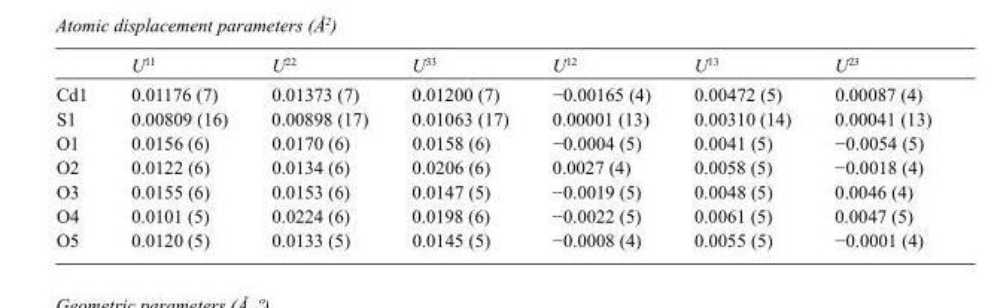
<table><thead><tr><td></td><td>U<sup>11</sup></td><td>U<sup>22</sup></td><td>U<sup>33</sup></td><td>U<sup>12</sup></td><td>U<sup>13</sup></td><td>U<sup>23</sup></td></tr></thead><tbody><tr><td>Cd1</td><td>0.01176 (7)</td><td>0.01373 (7)</td><td>0.01200 (7)</td><td>−0.00165 (4)</td><td>0.00472 (5)</td><td>0.00087 (4)</td></tr><tr><td>S1</td><td>0.00809 (16)</td><td>0.00898 (17)</td><td>0.01063 (17)</td><td>0.00001 (13)</td><td>0.00310 (14)</td><td>0.00041 (13)</td></tr><tr><td>O1</td><td>0.0156 (6)</td><td>0.0170 (6)</td><td>0.0158 (6)</td><td>−0.0004 (5)</td><td>0.0041 (5)</td><td>−0.0054 (5)</td></tr><tr><td>O2</td><td>0.0122 (6)</td><td>0.0134 (6)</td><td>0.0206 (6)</td><td>0.0027 (4)</td><td>0.0058 (5)</td><td>−0.0018 (4)</td></tr><tr><td>O3</td><td>0.0155 (6)</td><td>0.0153 (6)</td><td>0.0147 (5)</td><td>−0.0019 (5)</td><td>0.0048 (5)</td><td>0.0046 (4)</td></tr><tr><td>O4</td><td>0.0101 (5)</td><td>0.0224 (6)</td><td>0.0198 (6)</td><td>−0.0022 (5)</td><td>0.0061 (5)</td><td>0.0047 (5)</td></tr><tr><td>O5</td><td>0.0120 (5)</td><td>0.0133 (5)</td><td>0.0145 (5)</td><td>−0.0008 (4)</td><td>0.0055 (5)</td><td>−0.0001 (4)</td></tr></tbody></table>